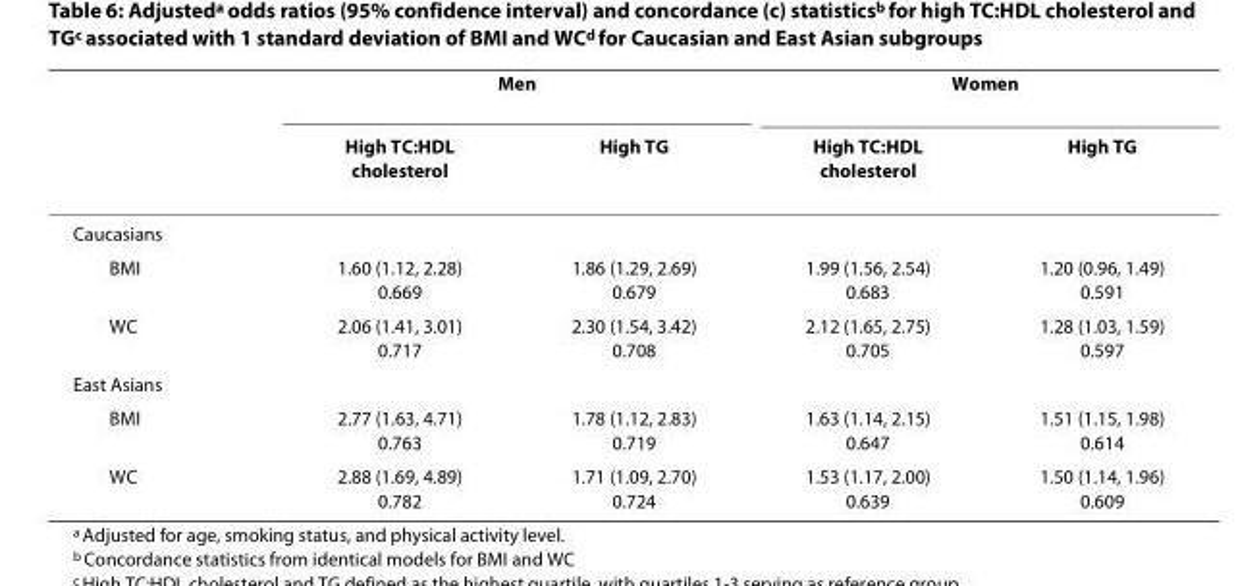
<table><thead><tr><td rowspan="2"></td><td colspan="2">Men</td><td colspan="2">Women</td></tr><tr><td>High TC:HDL cholesterol</td><td>High TG</td><td>High TC:HDL cholesterol</td><td>High TG</td></tr></thead><tbody><tr><td colspan="5">Caucasians</td></tr><tr><td>BMI</td><td>1.60 (1.12, 2.28) 0.669</td><td>1.86 (1.29, 2.69) 0.679</td><td>1.99 (1.56, 2.54) 0.683</td><td>1.20 (0.96, 1.49) 0.591</td></tr><tr><td>WC</td><td>2.06 (1.41, 3.01) 0.717</td><td>2.30 (1.54, 3.42) 0.708</td><td>2.12 (1.65, 2.75) 0.705</td><td>1.28 (1.03, 1.59) 0.597</td></tr><tr><td colspan="5">East Asians</td></tr><tr><td>BMI</td><td>2.77 (1.63, 4.71) 0.763</td><td>1.78 (1.12, 2.83) 0.719</td><td>1.63 (1.14, 2.15) 0.647</td><td>1.51 (1.15, 1.98) 0.614</td></tr><tr><td>WC</td><td>2.88 (1.69, 4.89) 0.782</td><td>1.71 (1.09, 2.70) 0.724</td><td>1.53 (1.17, 2.00) 0.639</td><td>1.50 (1.14, 1.96) 0.609</td></tr></tbody></table>